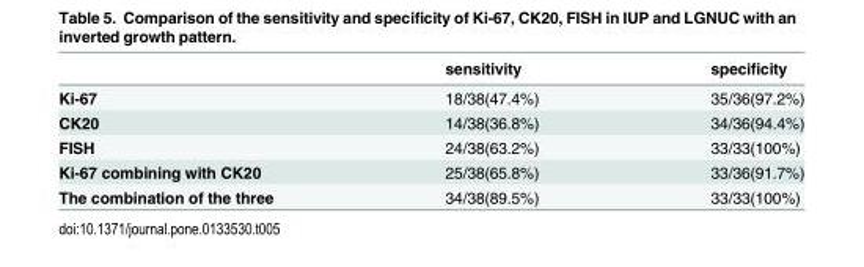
<table><thead><tr><td></td><td>sensitivity</td><td>specificity</td></tr></thead><tbody><tr><td>Ki-67</td><td>18/38(47.4%)</td><td>35/36(97.2%)</td></tr><tr><td>CK20</td><td>14/38(36.8%)</td><td>34/36(94.4%)</td></tr><tr><td>FISH</td><td>24/38(63.2%)</td><td>33/33(100%)</td></tr><tr><td>Ki-67 combining with CK20</td><td>25/38(65.8%)</td><td>33/36(91.7%)</td></tr><tr><td>The combination of the three</td><td>34/38(89.5%)</td><td>33/33(100%)</td></tr></tbody></table>